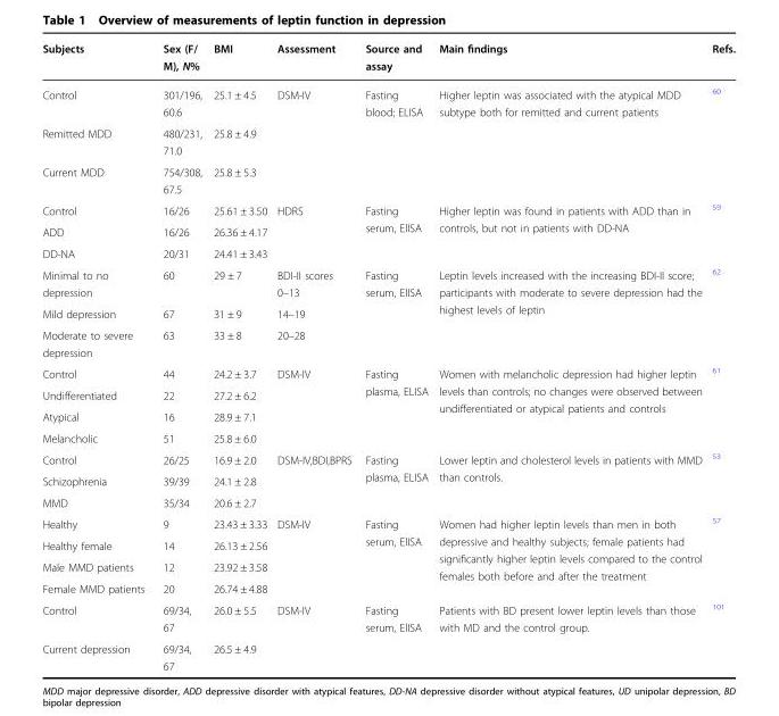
<table><thead><tr><td>Subjects</td><td>Sex (F/ M), N%</td><td>BMI</td><td>Assessment</td><td>Source and assay</td><td>Main findings</td><td>Refs.</td></tr></thead><tbody><tr><td>Control</td><td>301/196, 60.6</td><td>25.1 ± 4.5</td><td rowspan="3">DSM-IV</td><td rowspan="3">Fasting blood; ELISA</td><td rowspan="3">Higher leptin was associated with the atypical MDD subtype both for remitted and current patients</td><td rowspan="3"><sup>60</sup></td></tr><tr><td>Remitted MDD</td><td>480/231, 71.0</td><td>25.8 ± 4.9</td></tr><tr><td>Current MDD</td><td>754/308, 67.5</td><td>25.8 ± 5.3</td></tr><tr><td>Control</td><td>16/26</td><td>25.61 ± 3.50</td><td rowspan="3">HDRS</td><td rowspan="3">Fasting serum, ElISA</td><td rowspan="3">Higher leptin was found in patients with ADD than in controls, but not in patients with DD-NA</td><td rowspan="3"><sup>59</sup></td></tr><tr><td>ADD</td><td>16/26</td><td>26.36 ± 4.17</td></tr><tr><td>DD-NA</td><td>20/31</td><td>24.41 ± 3.43</td></tr><tr><td>Minimal to no depression</td><td>60</td><td>29 ± 7</td><td>BDI-II scores 0–13</td><td rowspan="3">Fasting serum, ElISA</td><td rowspan="3">Leptin levels increased with the increasing BDI-II score; participants with moderate to severe depression had the highest levels of leptin</td><td rowspan="3"><sup>62</sup></td></tr><tr><td>Mild depression</td><td>67</td><td>31 ± 9</td><td>14–19</td></tr><tr><td>Moderate to severe depression</td><td>63</td><td>33 ± 8</td><td>20–28</td></tr><tr><td>Control</td><td>44</td><td>24.2 ± 3.7</td><td rowspan="4">DSM-IV</td><td rowspan="4">Fasting plasma, ELISA</td><td rowspan="4">Women with melancholic depression had higher leptin levels than controls; no changes were observed between undifferentiated or atypical patients and controls</td><td rowspan="4"><sup>61</sup></td></tr><tr><td>Undifferentiated</td><td>22</td><td>27.2 ± 6.2</td></tr><tr><td>Atypical</td><td>16</td><td>28.9 ± 7.1</td></tr><tr><td>Melancholic</td><td>51</td><td>25.8 ± 6.0</td></tr><tr><td>Control</td><td>26/25</td><td>16.9 ± 2.0</td><td rowspan="3">DSM-IV,BDI,BPRS</td><td rowspan="3">Fasting plasma, ELISA</td><td rowspan="3">Lower leptin and cholesterol levels in patients with MMD than controls.</td><td rowspan="3"><sup>53</sup></td></tr><tr><td>Schizophrenia</td><td>39/39</td><td>24.1 ± 2.8</td></tr><tr><td>MMD</td><td>35/34</td><td>20.6 ± 2.7</td></tr><tr><td>Healthy</td><td>9</td><td>23.43 ± 3.33</td><td rowspan="4">DSM-IV</td><td rowspan="4">Fasting serum, ElISA</td><td rowspan="4">Women had higher leptin levels than men in both depressive and healthy subjects; female patients had significantly higher leptin levels compared to the control females both before and after the treatment</td><td rowspan="4"><sup>57</sup></td></tr><tr><td>Healthy female</td><td>14</td><td>26.13 ± 2.56</td></tr><tr><td>Male MMD patients</td><td>12</td><td>23.92 ± 3.58</td></tr><tr><td>Female MMD patients</td><td>20</td><td>26.74 ± 4.88</td></tr><tr><td>Control</td><td>69/34, 67</td><td>26.0 ± 5.5</td><td rowspan="2">DSM-IV</td><td rowspan="2">Fasting serum, ElISA</td><td rowspan="2">Patients with BD present lower leptin levels than those with MD and the control group.</td><td rowspan="2"><sup>101</sup></td></tr><tr><td>Current depression</td><td>69/34, 67</td><td>26.5 ± 4.9</td></tr></tbody></table>